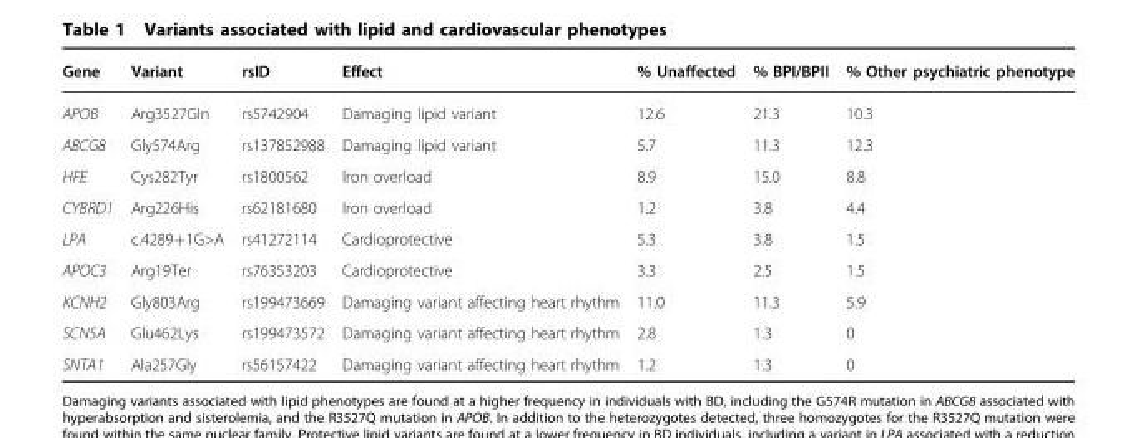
<table><thead><tr><td>Gene</td><td>Variant</td><td>rsID</td><td>Effect</td><td>% Unaffected</td><td>% BPI/BPII</td><td>% Other psychiatric phenotype</td></tr></thead><tbody><tr><td>APOB</td><td>Arg3527Gln</td><td>rs5742904</td><td>Damaging lipid variant</td><td>12.6</td><td>21.3</td><td>10.3</td></tr><tr><td>ABCG8</td><td>Gly574Arg</td><td>rs137852988</td><td>Damaging lipid variant</td><td>5.7</td><td>11.3</td><td>12.3</td></tr><tr><td>HFE</td><td>Cys282Tyr</td><td>rs1800562</td><td>Iron overload</td><td>8.9</td><td>15.0</td><td>8.8</td></tr><tr><td>CYBRD1</td><td>Arg226His</td><td>rs62181680</td><td>Iron overload</td><td>1.2</td><td>3.8</td><td>4.4</td></tr><tr><td>LPA</td><td>c.4289+1G&gt;A</td><td>rs41272114</td><td>Cardioprotective</td><td>5.3</td><td>3.8</td><td>1.5</td></tr><tr><td>APOC3</td><td>Arg19Ter</td><td>rs76353203</td><td>Cardioprotective</td><td>3.3</td><td>2.5</td><td>1.5</td></tr><tr><td>KCNH2</td><td>Gly803Arg</td><td>rs199473669</td><td>Damaging variant affecting heart rhythm</td><td>11.0</td><td>11.3</td><td>5.9</td></tr><tr><td>SCN5A</td><td>Glu462Lys</td><td>rs199473572</td><td>Damaging variant affecting heart rhythm</td><td>2.8</td><td>1.3</td><td>0</td></tr><tr><td>SNTA1</td><td>Ala257Gly</td><td>rs56157422</td><td>Damaging variant affecting heart rhythm</td><td>1.2</td><td>1.3</td><td>0</td></tr></tbody></table>